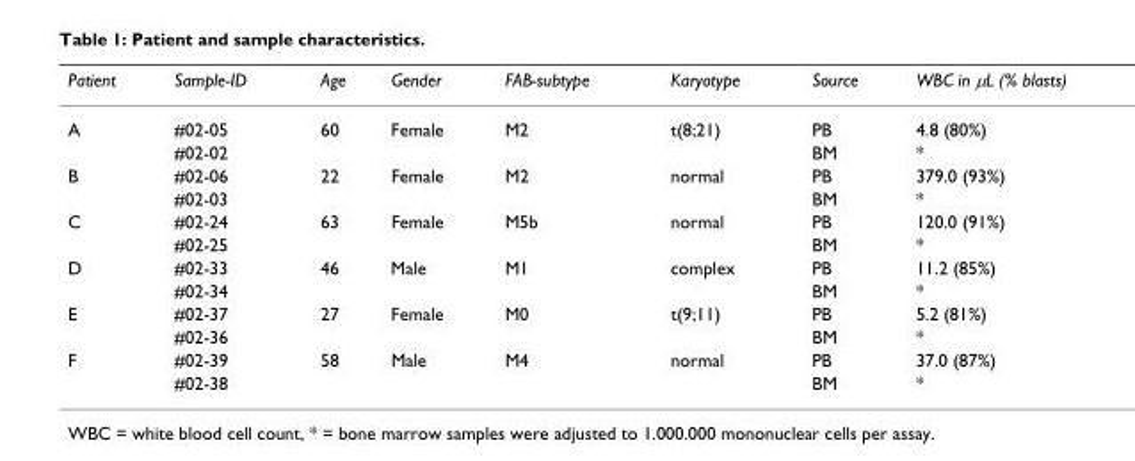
<table><thead><tr><td>Patient</td><td>Sample-ID</td><td>Age</td><td>Gender</td><td>FAB-subtype</td><td>Karyotype</td><td>Source</td><td>WBC in μL (% blasts)</td></tr></thead><tbody><tr><td rowspan="2">A</td><td>#02-05</td><td>60</td><td>Female</td><td>M2</td><td>t(8;21)</td><td>PB</td><td>4.8 (80%)</td></tr><tr><td>#02-02</td><td></td><td></td><td></td><td></td><td>BM</td><td>*</td></tr><tr><td rowspan="2">B</td><td>#02-06</td><td>22</td><td>Female</td><td>M2</td><td>normal</td><td>PB</td><td>379.0 (93%)</td></tr><tr><td>#02-03</td><td></td><td></td><td></td><td></td><td>BM</td><td>*</td></tr><tr><td rowspan="2">C</td><td>#02-24</td><td>63</td><td>Female</td><td>M5b</td><td>normal</td><td>PB</td><td>120.0 (91%)</td></tr><tr><td>#02-25</td><td></td><td></td><td></td><td></td><td>BM</td><td>*</td></tr><tr><td rowspan="2">D</td><td>#02-33</td><td>46</td><td>Male</td><td>M1</td><td>complex</td><td>PB</td><td>11.2 (85%)</td></tr><tr><td>#02-34</td><td></td><td></td><td></td><td></td><td>BM</td><td>*</td></tr><tr><td rowspan="2">E</td><td>#02-37</td><td>27</td><td>Female</td><td>M0</td><td>t(9;11)</td><td>PB</td><td>5.2 (81%)</td></tr><tr><td>#02-36</td><td></td><td></td><td></td><td></td><td>BM</td><td>*</td></tr><tr><td rowspan="2">F</td><td>#02-39</td><td>58</td><td>Male</td><td>M4</td><td>normal</td><td>PB</td><td>37.0 (87%)</td></tr><tr><td>#02-38</td><td></td><td></td><td></td><td></td><td>BM</td><td>*</td></tr></tbody></table>